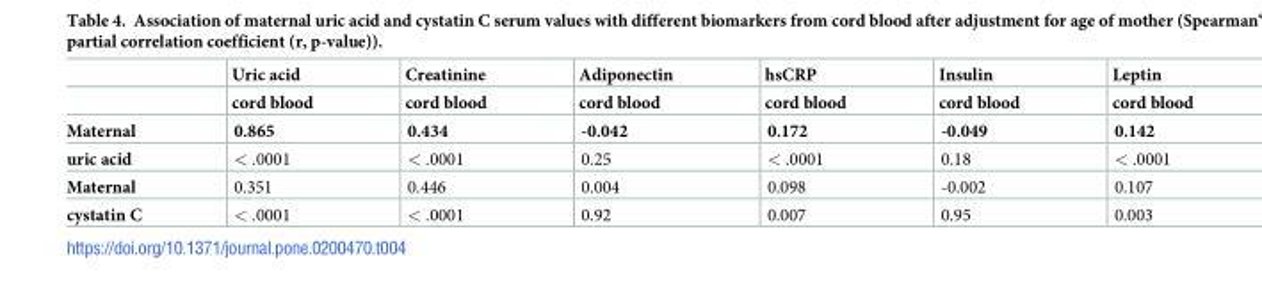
<table><thead><tr><td rowspan="2"></td><td rowspan="2">Uric acid cord blood</td><td rowspan="2">Creatinine cord blood</td><td rowspan="2">Adiponectin cord blood</td><td rowspan="2">hsCRP cord blood</td><td rowspan="2">Insulin cord blood</td><td rowspan="2">Leptin cord blood</td></tr><tr></tr></thead><tbody><tr><td>Maternal</td><td>0.865</td><td>0.434</td><td>-0.042</td><td>0.172</td><td>-0.049</td><td>0.142</td></tr><tr><td>uric acid</td><td>&lt; .0001</td><td>&lt; .0001</td><td>0.25</td><td>&lt; .0001</td><td>0.18</td><td>&lt; .0001</td></tr><tr><td>Maternal</td><td>0.351</td><td>0.446</td><td>0.004</td><td>0.098</td><td>-0.002</td><td>0.107</td></tr><tr><td>cystatin C</td><td>&lt; .0001</td><td>&lt; .0001</td><td>0.92</td><td>0.007</td><td>0.95</td><td>0.003</td></tr></tbody></table>